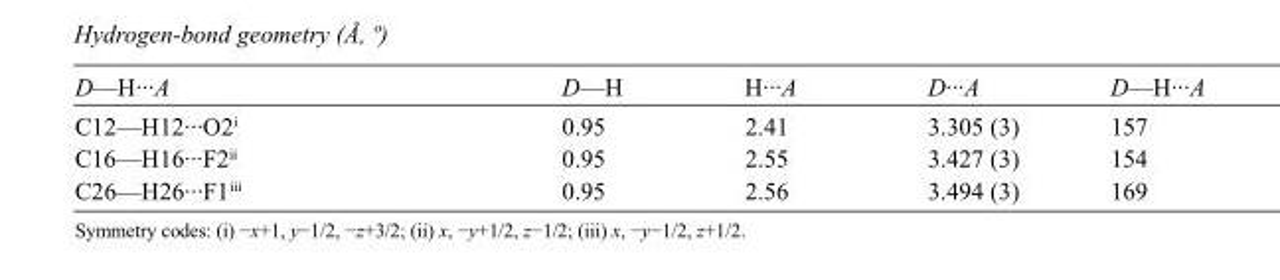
<table><tbody><tr><td>D—H···A</td><td>D—H</td><td>H···A</td><td>D···A</td><td>D—H···A</td></tr><tr><td>C12—H12···O2<sup>i</sup></td><td>0.95</td><td>2.41</td><td>3.305 (3)</td><td>157</td></tr><tr><td>C16—H16···F2<sup>ii</sup></td><td>0.95</td><td>2.55</td><td>3.427 (3)</td><td>154</td></tr><tr><td>C26—H26···F1<sup>iii</sup></td><td>0.95</td><td>2.56</td><td>3.494 (3)</td><td>169</td></tr></tbody></table>